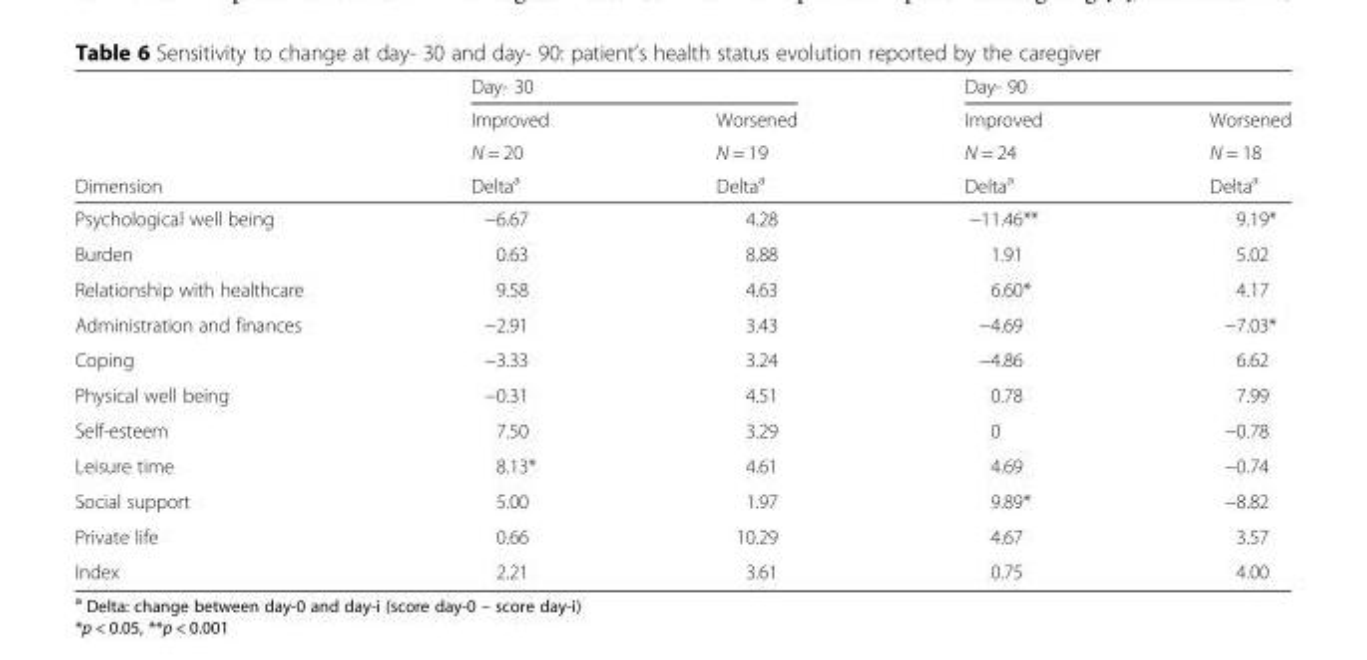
<table><thead><tr><td rowspan="4">Dimension</td><td colspan="2">Day- 30</td><td colspan="2">Day- 90</td></tr><tr><td rowspan="3">Improved N = 20 Delta<sup>a</sup></td><td rowspan="3">Worsened N = 19 Delta<sup>a</sup></td><td rowspan="3">Improved N = 24 Delta<sup>a</sup></td><td rowspan="3">Worsened N = 18 Delta<sup>a</sup></td></tr><tr></tr><tr></tr></thead><tbody><tr><td>Psychological well being</td><td>−6.67</td><td>4.28</td><td>−11.46**</td><td>9.19*</td></tr><tr><td>Burden</td><td>0.63</td><td>8.88</td><td>1.91</td><td>5.02</td></tr><tr><td>Relationship with healthcare</td><td>9.58</td><td>4.63</td><td>6.60*</td><td>4.17</td></tr><tr><td>Administration and finances</td><td>−2.91</td><td>3.43</td><td>−4.69</td><td>−7.03*</td></tr><tr><td>Coping</td><td>−3.33</td><td>3.24</td><td>−4.86</td><td>6.62</td></tr><tr><td>Physical well being</td><td>−0.31</td><td>4.51</td><td>0.78</td><td>7.99</td></tr><tr><td>Self-esteem</td><td>7.50</td><td>3.29</td><td>0</td><td>−0.78</td></tr><tr><td>Leisure time</td><td>8.13*</td><td>4.61</td><td>4.69</td><td>−0.74</td></tr><tr><td>Social support</td><td>5.00</td><td>1.97</td><td>9.89*</td><td>−8.82</td></tr><tr><td>Private life</td><td>0.66</td><td>10.29</td><td>4.67</td><td>3.57</td></tr><tr><td>Index</td><td>2.21</td><td>3.61</td><td>0.75</td><td>4.00</td></tr></tbody></table>